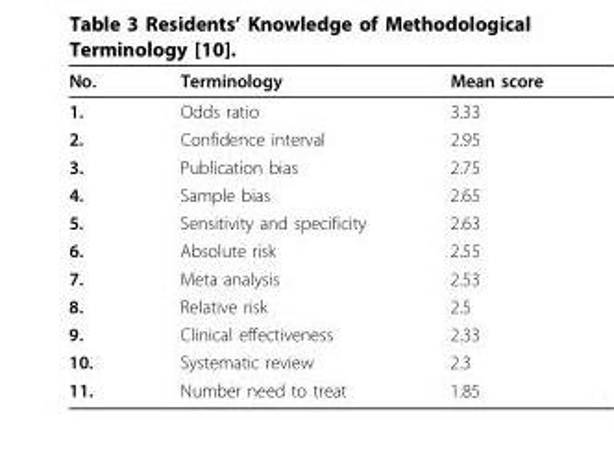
<table><thead><tr><td>No.</td><td>Terminology</td><td>Mean score</td></tr></thead><tbody><tr><td>1.</td><td>Odds ratio</td><td>3.33</td></tr><tr><td>2.</td><td>Confidence interval</td><td>2.95</td></tr><tr><td>3.</td><td>Publication bias</td><td>2.75</td></tr><tr><td>4.</td><td>Sample bias</td><td>2.65</td></tr><tr><td>5.</td><td>Sensitivity and specificity</td><td>2.63</td></tr><tr><td>6.</td><td>Absolute risk</td><td>2.55</td></tr><tr><td>7.</td><td>Meta analysis</td><td>2.53</td></tr><tr><td>8.</td><td>Relative risk</td><td>2.5</td></tr><tr><td>9.</td><td>Clinical effectiveness</td><td>2.33</td></tr><tr><td>10.</td><td>Systematic review</td><td>2.3</td></tr><tr><td>11.</td><td>Number need to treat</td><td>1.85</td></tr></tbody></table>